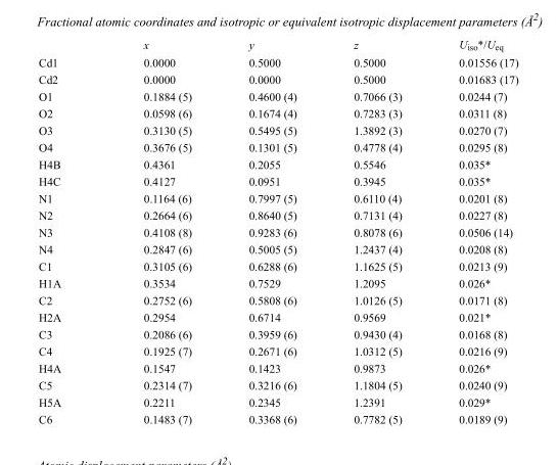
<table><thead><tr><td></td><td>x</td><td>y</td><td>z</td><td>U<sub>iso</sub>*/U<sub>eq</sub></td></tr></thead><tbody><tr><td>Cd1</td><td>0.0000</td><td>0.5000</td><td>0.5000</td><td>0.01556 (17)</td></tr><tr><td>Cd2</td><td>0.0000</td><td>0.0000</td><td>0.5000</td><td>0.01683 (17)</td></tr><tr><td>O1</td><td>0.1884 (5)</td><td>0.4600 (4)</td><td>0.7066 (3)</td><td>0.0244 (7)</td></tr><tr><td>O2</td><td>0.0598 (6)</td><td>0.1674 (4)</td><td>0.7283 (3)</td><td>0.0311 (8)</td></tr><tr><td>O3</td><td>0.3130 (5)</td><td>0.5495 (5)</td><td>1.3892 (3)</td><td>0.0270 (7)</td></tr><tr><td>O4</td><td>0.3676 (5)</td><td>0.1301 (5)</td><td>0.4778 (4)</td><td>0.0295 (8)</td></tr><tr><td>H4B</td><td>0.4361</td><td>0.2055</td><td>0.5546</td><td>0.035*</td></tr><tr><td>H4C</td><td>0.4127</td><td>0.0951</td><td>0.3945</td><td>0.035*</td></tr><tr><td>N1</td><td>0.1164 (6)</td><td>0.7997 (5)</td><td>0.6110 (4)</td><td>0.0201 (8)</td></tr><tr><td>N2</td><td>0.2664 (6)</td><td>0.8640 (5)</td><td>0.7131 (4)</td><td>0.0227 (8)</td></tr><tr><td>N3</td><td>0.4108 (8)</td><td>0.9283 (6)</td><td>0.8078 (6)</td><td>0.0506 (14)</td></tr><tr><td>N4</td><td>0.2847 (6)</td><td>0.5005 (5)</td><td>1.2437 (4)</td><td>0.0208 (8)</td></tr><tr><td>C1</td><td>0.3105 (6)</td><td>0.6288 (6)</td><td>1.1625 (5)</td><td>0.0213 (9)</td></tr><tr><td>H1A</td><td>0.3534</td><td>0.7529</td><td>1.2095</td><td>0.026*</td></tr><tr><td>C2</td><td>0.2752 (6)</td><td>0.5808 (6)</td><td>1.0126 (5)</td><td>0.0171 (8)</td></tr><tr><td>H2A</td><td>0.2954</td><td>0.6714</td><td>0.9569</td><td>0.021*</td></tr><tr><td>C3</td><td>0.2086 (6)</td><td>0.3959 (6)</td><td>0.9430 (4)</td><td>0.0168 (8)</td></tr><tr><td>C4</td><td>0.1925 (7)</td><td>0.2671 (6)</td><td>1.0312 (5)</td><td>0.0216 (9)</td></tr><tr><td>H4A</td><td>0.1547</td><td>0.1423</td><td>0.9873</td><td>0.026*</td></tr><tr><td>C5</td><td>0.2314 (7)</td><td>0.3216 (6)</td><td>1.1804 (5)</td><td>0.0240 (9)</td></tr><tr><td>H5A</td><td>0.2211</td><td>0.2345</td><td>1.2391</td><td>0.029*</td></tr><tr><td>C6</td><td>0.1483 (7)</td><td>0.3368 (6)</td><td>0.7782 (5)</td><td>0.0189 (9)</td></tr></tbody></table>